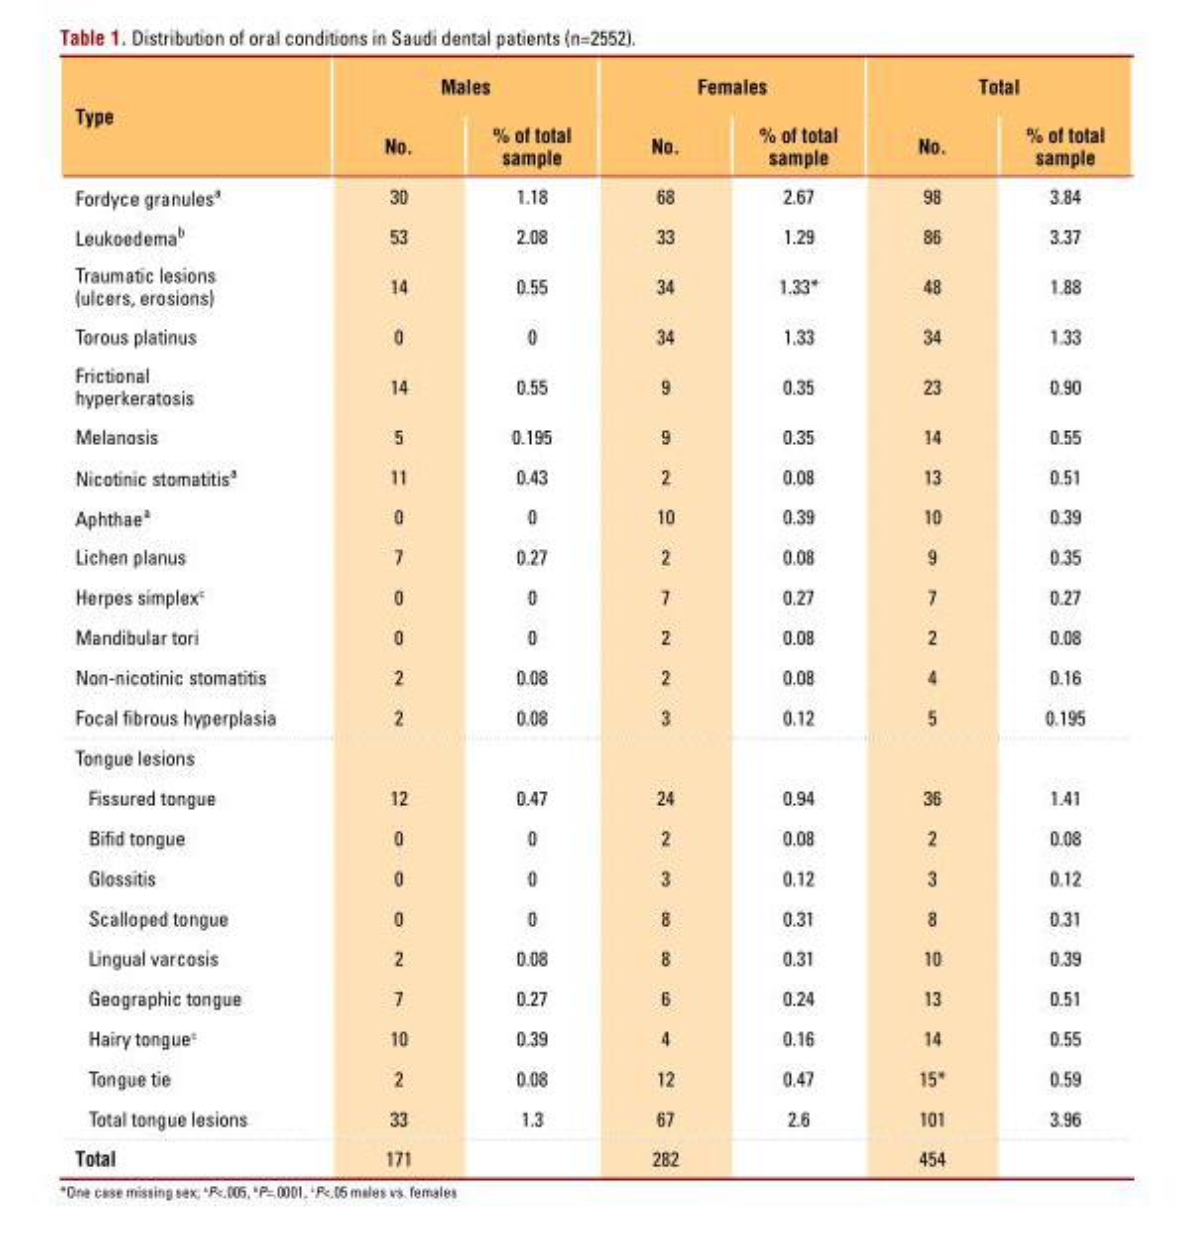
<table><thead><tr><td rowspan="2">Type</td><td colspan="2">Males</td><td colspan="2">Females</td><td colspan="2">Total</td></tr><tr><td>No.</td><td>% of total sample</td><td>No.</td><td>% of total sample</td><td>No.</td><td>% of total sample</td></tr></thead><tbody><tr><td>Fordyce granules<sup>a</sup></td><td>30</td><td>1.18</td><td>68</td><td>2.67</td><td>98</td><td>3.84</td></tr><tr><td>Leukoedema<sup>b</sup></td><td>53</td><td>2.08</td><td>33</td><td>1.29</td><td>86</td><td>3.37</td></tr><tr><td>Traumatic lesions (ulcers, erosions)</td><td>14</td><td>0.55</td><td>34</td><td>1.33*</td><td>48</td><td>1.88</td></tr><tr><td>Torous platinus</td><td>0</td><td>0</td><td>34</td><td>1.33</td><td>34</td><td>1.33</td></tr><tr><td>Frictional hyperkeratosis</td><td>14</td><td>0.55</td><td>9</td><td>0.35</td><td>23</td><td>0.90</td></tr><tr><td>Melanosis</td><td>5</td><td>0.195</td><td>9</td><td>0.35</td><td>14</td><td>0.55</td></tr><tr><td>Nicotinic stomatitis<sup>a</sup></td><td>11</td><td>0.43</td><td>2</td><td>0.08</td><td>13</td><td>0.51</td></tr><tr><td>Aphthae<sup>a</sup></td><td>0</td><td>0</td><td>10</td><td>0.39</td><td>10</td><td>0.39</td></tr><tr><td>Lichen planus</td><td>7</td><td>0.27</td><td>2</td><td>0.08</td><td>9</td><td>0.35</td></tr><tr><td>Herpes simplex<sup>c</sup></td><td>0</td><td>0</td><td>7</td><td>0.27</td><td>7</td><td>0.27</td></tr><tr><td>Mandibular tori</td><td>0</td><td>0</td><td>2</td><td>0.08</td><td>2</td><td>0.08</td></tr><tr><td>Non-nicotinic stomatitis</td><td>2</td><td>0.08</td><td>2</td><td>0.08</td><td>4</td><td>0.16</td></tr><tr><td>Focal fibrous hyperplasia</td><td>2</td><td>0.08</td><td>3</td><td>0.12</td><td>5</td><td>0.195</td></tr><tr><td colspan="7">Tongue lesions</td></tr><tr><td>Fissured tongue</td><td>12</td><td>0.47</td><td>24</td><td>0.94</td><td>36</td><td>1.41</td></tr><tr><td>Bifid tongue</td><td>0</td><td>0</td><td>2</td><td>0.08</td><td>2</td><td>0.08</td></tr><tr><td>Glossitis</td><td>0</td><td>0</td><td>3</td><td>0.12</td><td>3</td><td>0.12</td></tr><tr><td>Scalloped tongue</td><td>0</td><td>0</td><td>8</td><td>0.31</td><td>8</td><td>0.31</td></tr><tr><td>Lingual varcosis</td><td>2</td><td>0.08</td><td>8</td><td>0.31</td><td>10</td><td>0.39</td></tr><tr><td>Geographic tongue</td><td>7</td><td>0.27</td><td>6</td><td>0.24</td><td>13</td><td>0.51</td></tr><tr><td>Hairy tongue<sup>c</sup></td><td>10</td><td>0.39</td><td>4</td><td>0.16</td><td>14</td><td>0.55</td></tr><tr><td>Tongue tie</td><td>2</td><td>0.08</td><td>12</td><td>0.47</td><td>15*</td><td>0.59</td></tr><tr><td>Total tongue lesions</td><td>33</td><td>1.3</td><td>67</td><td>2.6</td><td>101</td><td>3.96</td></tr><tr><td>Total</td><td>171</td><td></td><td>282</td><td></td><td>454</td><td></td></tr></tbody></table>